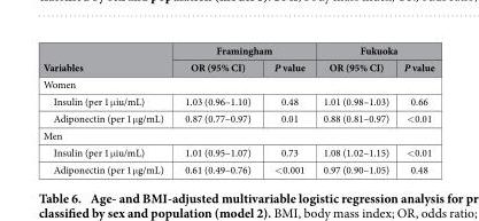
<table><thead><tr><td rowspan="2">Variables</td><td colspan="2">Framingham</td><td colspan="2">Fukuoka</td></tr><tr><td>OR (95% CI)</td><td>P value</td><td>OR (95% CI)</td><td>P value</td></tr></thead><tbody><tr><td colspan="5">Women</td></tr><tr><td>Insulin (per 1 μ iu/mL)</td><td>1.03 (0.96–1.10)</td><td>0.48</td><td>1.01 (0.98–1.03)</td><td>0.66</td></tr><tr><td>Adiponectin (per 1 μ g/mL)</td><td>0.87 (0.77–0.97)</td><td>0.01</td><td>0.88 (0.81–0.97)</td><td>&lt; 0.01</td></tr><tr><td colspan="5">Men</td></tr><tr><td>Insulin (per 1 μ iu/mL)</td><td>1.01 (0.95–1.07)</td><td>0.73</td><td>1.08 (1.02–1.15)</td><td>&lt; 0.01</td></tr><tr><td>Adiponectin (per 1 μ g/mL)</td><td>0.61 (0.49–0.76)</td><td>&lt; 0.001</td><td>0.97 (0.90–1.05)</td><td>0.48</td></tr></tbody></table>